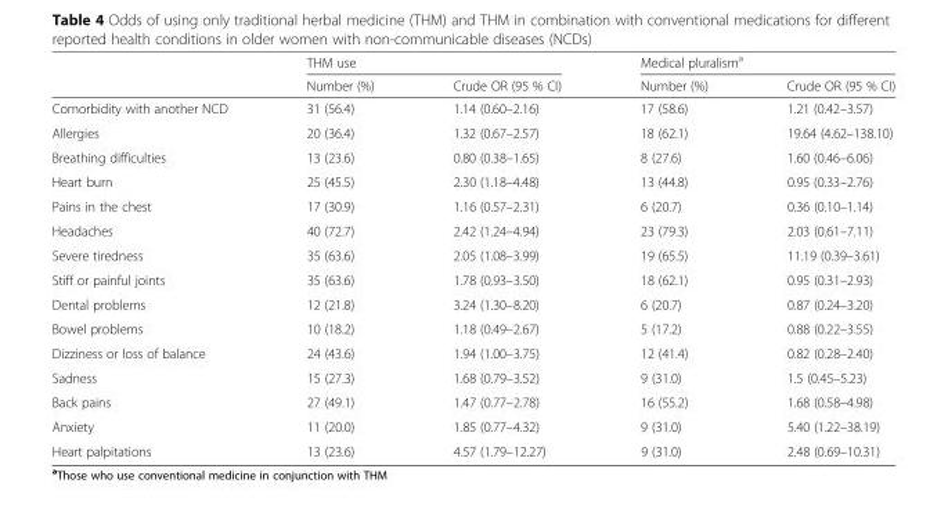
<table><thead><tr><td rowspan="2"></td><td colspan="2">THM use</td><td colspan="2">Medical pluralism<sup>a</sup></td></tr><tr><td>Number (%)</td><td>Crude OR (95 % CI)</td><td>Number (%)</td><td>Crude OR (95 % CI)</td></tr></thead><tbody><tr><td>Comorbidity with another NCD</td><td>31 (56.4)</td><td>1.14 (0.60–2.16)</td><td>17 (58.6)</td><td>1.21 (0.42–3.57)</td></tr><tr><td>Allergies</td><td>20 (36.4)</td><td>1.32 (0.67–2.57)</td><td>18 (62.1)</td><td>19.64 (4.62–138.10)</td></tr><tr><td>Breathing difficulties</td><td>13 (23.6)</td><td>0.80 (0.38–1.65)</td><td>8 (27.6)</td><td>1.60 (0.46–6.06)</td></tr><tr><td>Heart burn</td><td>25 (45.5)</td><td>2.30 (1.18–4.48)</td><td>13 (44.8)</td><td>0.95 (0.33–2.76)</td></tr><tr><td>Pains in the chest</td><td>17 (30.9)</td><td>1.16 (0.57–2.31)</td><td>6 (20.7)</td><td>0.36 (0.10–1.14)</td></tr><tr><td>Headaches</td><td>40 (72.7)</td><td>2.42 (1.24–4.94)</td><td>23 (79.3)</td><td>2.03 (0.61–7.11)</td></tr><tr><td>Severe tiredness</td><td>35 (63.6)</td><td>2.05 (1.08–3.99)</td><td>19 (65.5)</td><td>11.19 (0.39–3.61)</td></tr><tr><td>Stiff or painful joints</td><td>35 (63.6)</td><td>1.78 (0.93–3.50)</td><td>18 (62.1)</td><td>0.95 (0.31–2.93)</td></tr><tr><td>Dental problems</td><td>12 (21.8)</td><td>3.24 (1.30–8.20)</td><td>6 (20.7)</td><td>0.87 (0.24–3.20)</td></tr><tr><td>Bowel problems</td><td>10 (18.2)</td><td>1.18 (0.49–2.67)</td><td>5 (17.2)</td><td>0.88 (0.22–3.55)</td></tr><tr><td>Dizziness or loss of balance</td><td>24 (43.6)</td><td>1.94 (1.00–3.75)</td><td>12 (41.4)</td><td>0.82 (0.28–2.40)</td></tr><tr><td>Sadness</td><td>15 (27.3)</td><td>1.68 (0.79–3.52)</td><td>9 (31.0)</td><td>1.5 (0.45–5.23)</td></tr><tr><td>Back pains</td><td>27 (49.1)</td><td>1.47 (0.77–2.78)</td><td>16 (55.2)</td><td>1.68 (0.58–4.98)</td></tr><tr><td>Anxiety</td><td>11 (20.0)</td><td>1.85 (0.77–4.32)</td><td>9 (31.0)</td><td>5.40 (1.22–38.19)</td></tr><tr><td>Heart palpitations</td><td>13 (23.6)</td><td>4.57 (1.79–12.27)</td><td>9 (31.0)</td><td>2.48 (0.69–10.31)</td></tr></tbody></table>